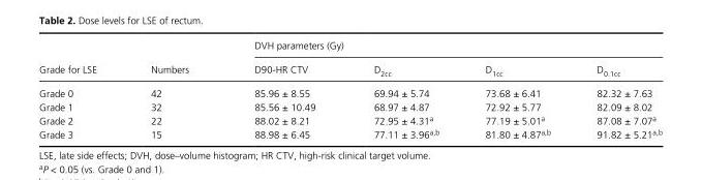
<table><thead><tr><td rowspan="2">Grade for LSE</td><td rowspan="2">Numbers</td><td colspan="4">DVH parameters (Gy)</td></tr><tr><td>D90- HR CTV</td><td>D<sub>2cc</sub></td><td>D<sub>1cc</sub></td><td>D<sub>0.1cc</sub></td></tr></thead><tbody><tr><td>Grade 0</td><td>42</td><td>85.96 ± 8.55</td><td>69.94 ± 5.74</td><td>73.68 ± 6.41</td><td>82.32 ± 7.63</td></tr><tr><td>Grade 1</td><td>32</td><td>85.56 ± 10.49</td><td>68.97 ± 4.87</td><td>72.92 ± 5.77</td><td>82.09 ± 8.02</td></tr><tr><td>Grade 2</td><td>22</td><td>88.02 ± 8.21</td><td>72.95 ± 4.31<sup>a</sup></td><td>77.19 ± 5.01<sup>a</sup></td><td>87.08 ± 7.07<sup>a</sup></td></tr><tr><td>Grade 3</td><td>15</td><td>88.98 ± 6.45</td><td>77.11 ± 3.96<sup>a,</sup>b</td><td>81.80 ± 4.87<sup>a,</sup>b</td><td>91.82 ± 5.21<sup>a,</sup>b</td></tr></tbody></table>